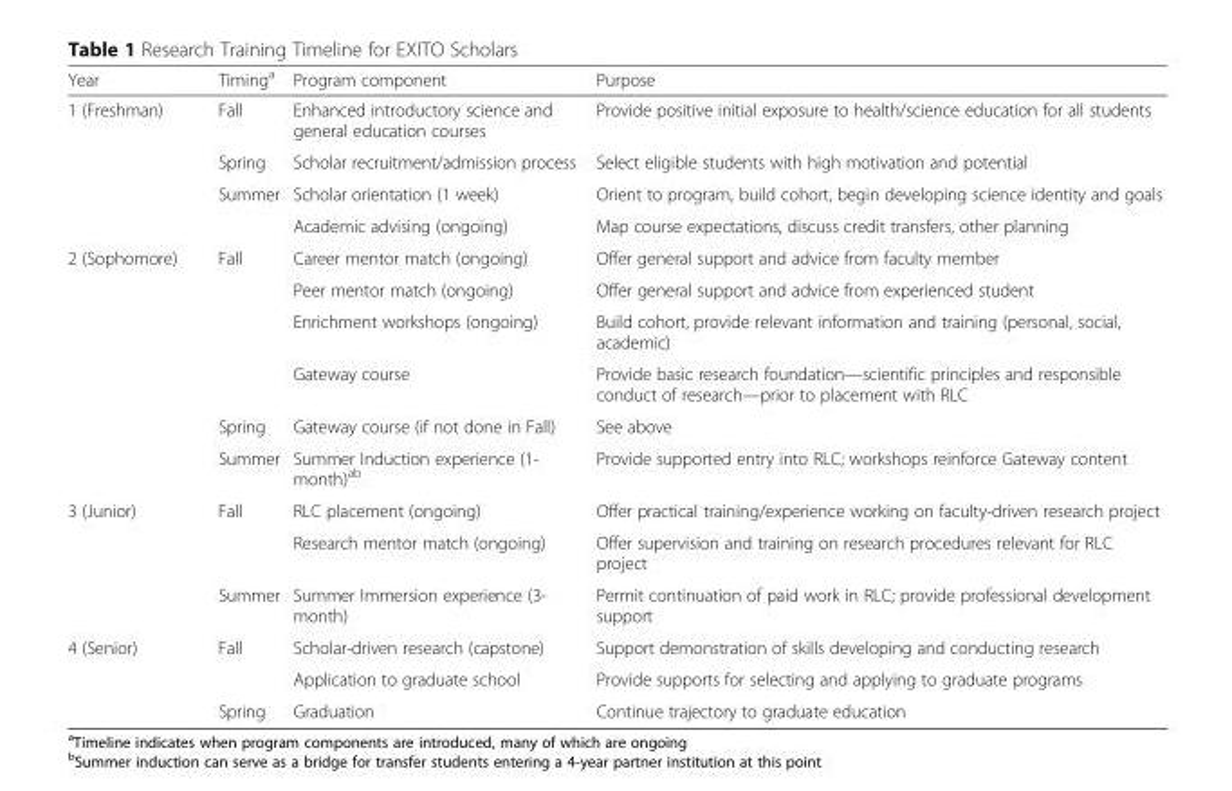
<table><thead><tr><td>Year</td><td>Timing<sup>a</sup></td><td>Program component</td><td>Purpose</td></tr></thead><tbody><tr><td rowspan="4">1 (Freshman)</td><td>Fall</td><td>Enhanced introductory science and general education courses</td><td>Provide positive initial exposure to health/science education for all students</td></tr><tr><td>Spring</td><td>Scholar recruitment/admission process</td><td>Select eligible students with high motivation and potential</td></tr><tr><td rowspan="2">Summer</td><td>Scholar orientation (1 week)</td><td>Orient to program, build cohort, begin developing science identity and goals</td></tr><tr><td>Academic advising (ongoing)</td><td>Map course expectations, discuss credit transfers, other planning</td></tr><tr><td rowspan="6">2 (Sophomore)</td><td rowspan="4">Fall</td><td>Career mentor match (ongoing)</td><td>Offer general support and advice from faculty member</td></tr><tr><td>Peer mentor match (ongoing)</td><td>Offer general support and advice from experienced student</td></tr><tr><td>Enrichment workshops (ongoing)</td><td>Build cohort, provide relevant information and training (personal, social, academic)</td></tr><tr><td>Gateway course</td><td>Provide basic research foundation—scientific principles and responsible conduct of research—prior to placement with RLC</td></tr><tr><td>Spring</td><td>Gateway course (if not done in Fall)</td><td>See above</td></tr><tr><td>Summer</td><td>Summer Induction experience (1- month)<sup>ab</sup></td><td>Provide supported entry into RLC; workshops reinforce Gateway content</td></tr><tr><td rowspan="3">3 (Junior)</td><td rowspan="2">Fall</td><td>RLC placement (ongoing)</td><td>Offer practical training/experience working on faculty-driven research project</td></tr><tr><td>Research mentor match (ongoing)</td><td>Offer supervision and training on research procedures relevant for RLC project</td></tr><tr><td>Summer</td><td>Summer Immersion experience (3- month)</td><td>Permit continuation of paid work in RLC; provide professional development support</td></tr><tr><td rowspan="3">4 (Senior)</td><td rowspan="2">Fall</td><td>Scholar-driven research (capstone)</td><td>Support demonstration of skills developing and conducting research</td></tr><tr><td>Application to graduate school</td><td>Provide supports for selecting and applying to graduate programs</td></tr><tr><td>Spring</td><td>Graduation</td><td>Continue trajectory to graduate education</td></tr></tbody></table>